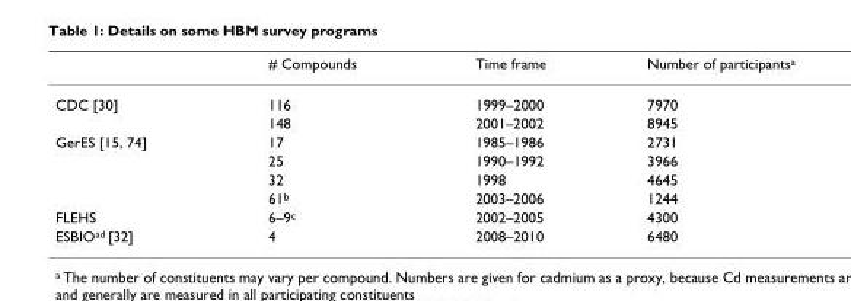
<table><thead><tr><td></td><td># Compounds</td><td>Time frame</td><td>Number of participants<sup>a</sup></td></tr></thead><tbody><tr><td rowspan="2">CDC [30]</td><td>116</td><td>1999–2000</td><td>7970</td></tr><tr><td>148</td><td>2001–2002</td><td>8945</td></tr><tr><td rowspan="4">GerES [15, 74]</td><td>17</td><td>1985–1986</td><td>2731</td></tr><tr><td>25</td><td>1990–1992</td><td>3966</td></tr><tr><td>32</td><td>1998</td><td>4645</td></tr><tr><td>61<sup>b</sup></td><td>2003–2006</td><td>1244</td></tr><tr><td>FLEHS</td><td>6–9<sup>c</sup></td><td>2002–2005</td><td>4300</td></tr><tr><td>ESBIO<sup>ad</sup> [32]</td><td>4</td><td>2008–2010</td><td>6480</td></tr></tbody></table>